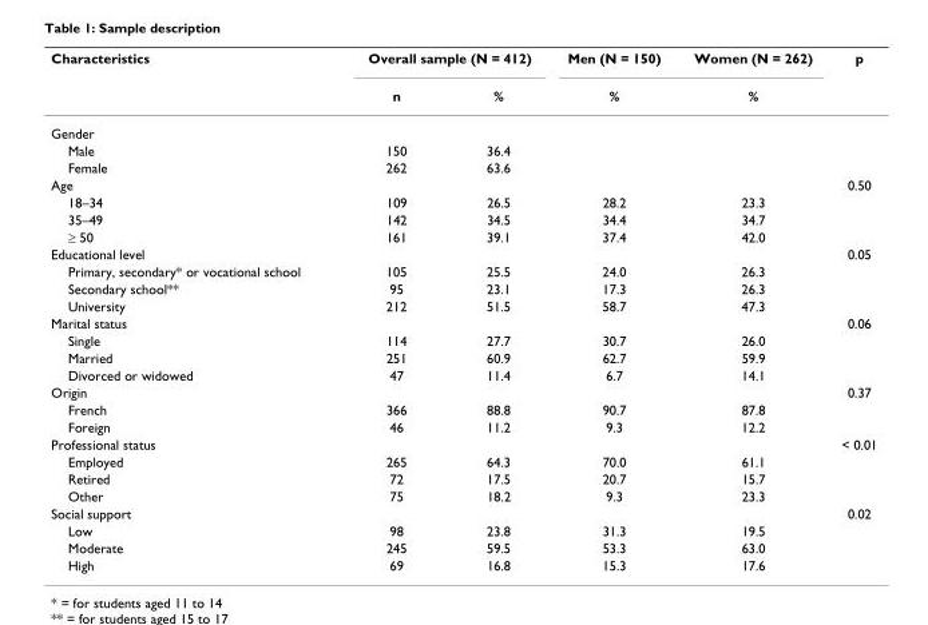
<table><thead><tr><td rowspan="2">Characteristics</td><td colspan="2">Overall sample (N = 412)</td><td rowspan="2">Men (N = 150) %</td><td rowspan="2">Women (N = 262) %</td><td rowspan="2">p</td></tr><tr><td>n</td><td>%</td></tr></thead><tbody><tr><td colspan="6">Gender</td></tr><tr><td>Male</td><td>150</td><td>36.4</td><td></td><td></td><td></td></tr><tr><td>Female</td><td>262</td><td>63.6</td><td></td><td></td><td></td></tr><tr><td>Age</td><td></td><td></td><td></td><td></td><td>0.50</td></tr><tr><td>18–34</td><td>109</td><td>26.5</td><td>28.2</td><td>23.3</td><td></td></tr><tr><td>35–49</td><td>142</td><td>34.5</td><td>34.4</td><td>34.7</td><td></td></tr><tr><td>≥ 50</td><td>161</td><td>39.1</td><td>37.4</td><td>42.0</td><td></td></tr><tr><td>Educational level</td><td></td><td></td><td></td><td></td><td>0.05</td></tr><tr><td>Primary, secondary* or vocational school</td><td>105</td><td>25.5</td><td>24.0</td><td>26.3</td><td></td></tr><tr><td>Secondary school**</td><td>95</td><td>23.1</td><td>17.3</td><td>26.3</td><td></td></tr><tr><td>University</td><td>212</td><td>51.5</td><td>58.7</td><td>47.3</td><td></td></tr><tr><td>Marital status</td><td></td><td></td><td></td><td></td><td>0.06</td></tr><tr><td>Single</td><td>114</td><td>27.7</td><td>30.7</td><td>26.0</td><td></td></tr><tr><td>Married</td><td>251</td><td>60.9</td><td>62.7</td><td>59.9</td><td></td></tr><tr><td>Divorced or widowed</td><td>47</td><td>11.4</td><td>6.7</td><td>14.1</td><td></td></tr><tr><td>Origin</td><td></td><td></td><td></td><td></td><td>0.37</td></tr><tr><td>French</td><td>366</td><td>88.8</td><td>90.7</td><td>87.8</td><td></td></tr><tr><td>Foreign</td><td>46</td><td>11.2</td><td>9.3</td><td>12.2</td><td></td></tr><tr><td>Professional status</td><td></td><td></td><td></td><td></td><td>&lt; 0.01</td></tr><tr><td>Employed</td><td>265</td><td>64.3</td><td>70.0</td><td>61.1</td><td></td></tr><tr><td>Retired</td><td>72</td><td>17.5</td><td>20.7</td><td>15.7</td><td></td></tr><tr><td>Other</td><td>75</td><td>18.2</td><td>9.3</td><td>23.3</td><td></td></tr><tr><td>Social support</td><td></td><td></td><td></td><td></td><td>0.02</td></tr><tr><td>Low</td><td>98</td><td>23.8</td><td>31.3</td><td>19.5</td><td></td></tr><tr><td>Moderate</td><td>245</td><td>59.5</td><td>53.3</td><td>63.0</td><td></td></tr><tr><td>High</td><td>69</td><td>16.8</td><td>15.3</td><td>17.6</td><td></td></tr></tbody></table>